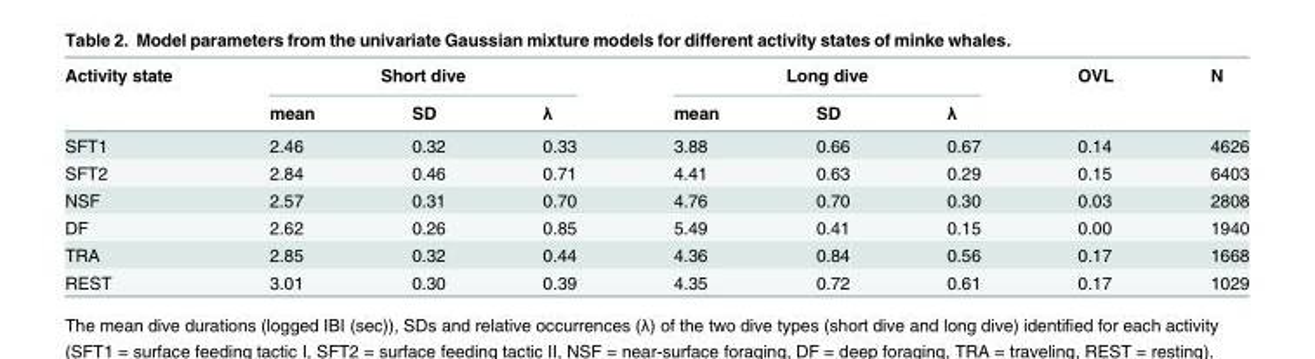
<table><thead><tr><td rowspan="2">Activity state</td><td colspan="3">Short dive</td><td colspan="3">Long dive</td><td rowspan="2">OVL</td><td rowspan="2">N</td></tr><tr><td>mean</td><td>SD</td><td>λ</td><td>mean</td><td>SD</td><td>λ</td></tr></thead><tbody><tr><td>SFT1</td><td>2.46</td><td>0.32</td><td>0.33</td><td>3.88</td><td>0.66</td><td>0.67</td><td>0.14</td><td>4626</td></tr><tr><td>SFT2</td><td>2.84</td><td>0.46</td><td>0.71</td><td>4.41</td><td>0.63</td><td>0.29</td><td>0.15</td><td>6403</td></tr><tr><td>NSF</td><td>2.57</td><td>0.31</td><td>0.70</td><td>4.76</td><td>0.70</td><td>0.30</td><td>0.03</td><td>2808</td></tr><tr><td>DF</td><td>2.62</td><td>0.26</td><td>0.85</td><td>5.49</td><td>0.41</td><td>0.15</td><td>0.00</td><td>1940</td></tr><tr><td>TRA</td><td>2.85</td><td>0.32</td><td>0.44</td><td>4.36</td><td>0.84</td><td>0.56</td><td>0.17</td><td>1668</td></tr><tr><td>REST</td><td>3.01</td><td>0.30</td><td>0.39</td><td>4.35</td><td>0.72</td><td>0.61</td><td>0.17</td><td>1029</td></tr></tbody></table>